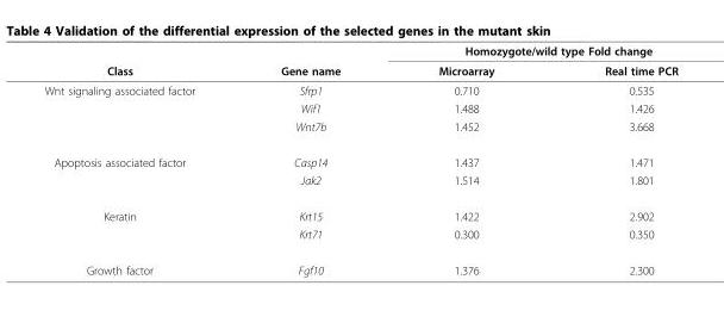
<table><thead><tr><td rowspan="2">Class</td><td rowspan="2">Gene name</td><td colspan="2">Homozygote/wild type Fold change</td></tr><tr><td>Microarray</td><td>Real time PCR</td></tr></thead><tbody><tr><td rowspan="3">Wnt signaling associated factor</td><td>Sfrp1</td><td>0.710</td><td>0.535</td></tr><tr><td>Wif1</td><td>1.488</td><td>1.426</td></tr><tr><td>Wnt7b</td><td>1.452</td><td>3.668</td></tr><tr><td rowspan="2">Apoptosis associated factor</td><td>Casp14</td><td>1.437</td><td>1.471</td></tr><tr><td>Jak2</td><td>1.514</td><td>1.801</td></tr><tr><td rowspan="2">Keratin</td><td>Krt15</td><td>1.422</td><td>2.902</td></tr><tr><td>Krt71</td><td>0.300</td><td>0.350</td></tr><tr><td>Growth factor</td><td>Fgf10</td><td>1.376</td><td>2.300</td></tr></tbody></table>